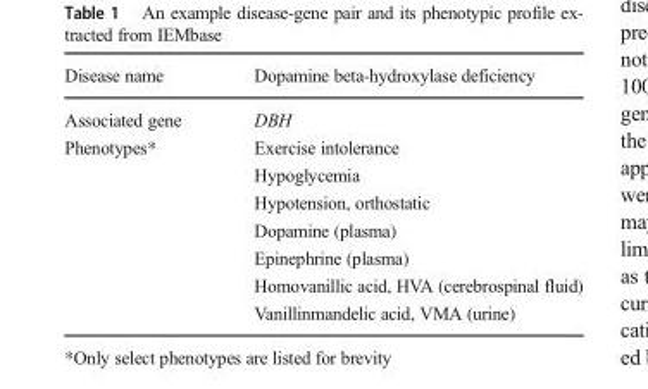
<table><thead><tr><td>Disease name</td><td>Dopamine beta-hydroxylase deficiency</td></tr></thead><tbody><tr><td>Associated gene</td><td>DBH</td></tr><tr><td rowspan="7">Phenotypes*</td><td>Exercise intolerance</td></tr><tr><td>Hypoglycemia</td></tr><tr><td>Hypotension, orthostatic</td></tr><tr><td>Dopamine (plasma)</td></tr><tr><td>Epinephrine (plasma)</td></tr><tr><td>Homovanillic acid, HVA (cerebrospinal fluid)</td></tr><tr><td>Vanillinmandelic acid, VMA (urine)</td></tr></tbody></table>